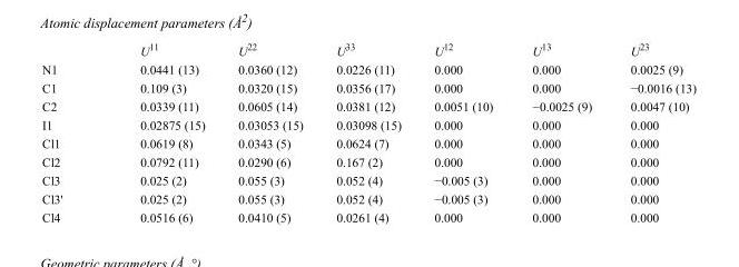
<table><thead><tr><td></td><td>U<sup>11</sup></td><td>U<sup>22</sup></td><td>U<sup>33</sup></td><td>U<sup>12</sup></td><td>U<sup>13</sup></td><td>U<sup>23</sup></td></tr></thead><tbody><tr><td>N1</td><td>0.0441 (13)</td><td>0.0360 (12)</td><td>0.0226 (11)</td><td>0.000</td><td>0.000</td><td>0.0025 (9)</td></tr><tr><td>C1</td><td>0.109 (3)</td><td>0.0320 (15)</td><td>0.0356 (17)</td><td>0.000</td><td>0.000</td><td>−0.0016 (13)</td></tr><tr><td>C2</td><td>0.0339 (11)</td><td>0.0605 (14)</td><td>0.0381 (12)</td><td>0.0051 (10)</td><td>−0.0025 (9)</td><td>0.0047 (10)</td></tr><tr><td>I1</td><td>0.02875 (15)</td><td>0.03053 (15)</td><td>0.03098 (15)</td><td>0.000</td><td>0.000</td><td>0.000</td></tr><tr><td>Cl1</td><td>0.0619 (8)</td><td>0.0343 (5)</td><td>0.0624 (7)</td><td>0.000</td><td>0.000</td><td>0.000</td></tr><tr><td>Cl2</td><td>0.0792 (11)</td><td>0.0290 (6)</td><td>0.167 (2)</td><td>0.000</td><td>0.000</td><td>0.000</td></tr><tr><td>Cl3</td><td>0.025 (2)</td><td>0.055 (3)</td><td>0.052 (4)</td><td>−0.005 (3)</td><td>0.000</td><td>0.000</td></tr><tr><td>Cl3&#x27;</td><td>0.025 (2)</td><td>0.055 (3)</td><td>0.052 (4)</td><td>−0.005 (3)</td><td>0.000</td><td>0.000</td></tr><tr><td>Cl4</td><td>0.0516 (6)</td><td>0.0410 (5)</td><td>0.0261 (4)</td><td>0.000</td><td>0.000</td><td>0.000</td></tr></tbody></table>